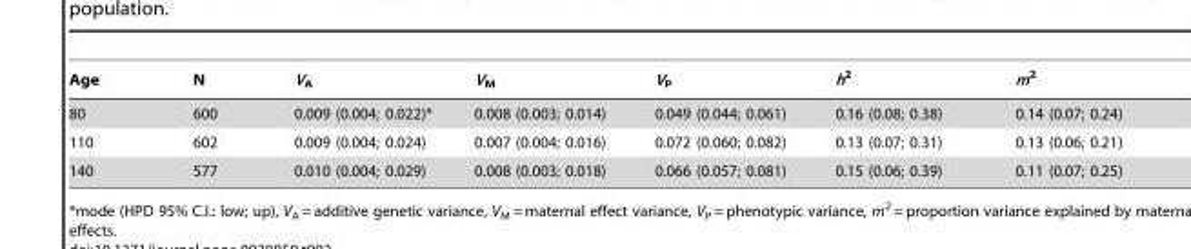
<table><thead><tr><td>Age</td><td>N</td><td>V<sub>A</sub></td><td>V<sub>M</sub></td><td>V<sub>P</sub></td><td>h<sup>2</sup></td><td>m<sup>2</sup></td></tr></thead><tbody><tr><td>80</td><td>600</td><td>0.009 (0.004; 0.022)*</td><td>0.008 (0.003; 0.014)</td><td>0.049 (0.044; 0.061)</td><td>0.16 (0.08; 0.38)</td><td>0.14 (0.07; 0.24)</td></tr><tr><td>110</td><td>602</td><td>0.009 (0.004; 0.024)</td><td>0.007 (0.004; 0.016)</td><td>0.072 (0.060; 0.082)</td><td>0.13 (0.07; 0.31)</td><td>0.13 (0.06; 0.21)</td></tr><tr><td>140</td><td>577</td><td>0.010 (0.004; 0.029)</td><td>0.008 (0.003; 0.018)</td><td>0.066 (0.057; 0.081)</td><td>0.15 (0.06; 0.39)</td><td>0.11 (0.07; 0.25)</td></tr></tbody></table>